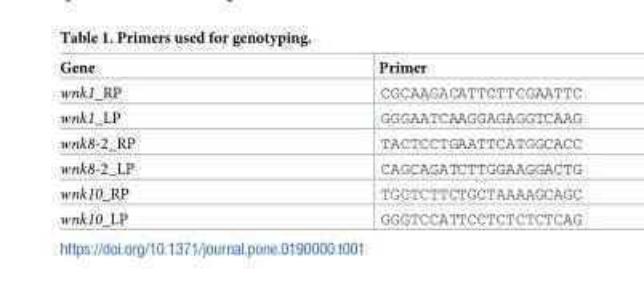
<table><thead><tr><td>Gene</td><td>Primer</td></tr></thead><tbody><tr><td>wnk1_RP</td><td>CGCAAGACATTCTTCGAATTC</td></tr><tr><td>wnk1_LP</td><td>GGGAATCAAGGAGAGGTCAAG</td></tr><tr><td>wnk8-2_RP</td><td>TACTCCTGAATTCATGGCACC</td></tr><tr><td>wnk8-2_LP</td><td>CAGCAGATCTTGGAAGGACTG</td></tr><tr><td>wnk10_RP</td><td>TGCTCTTCTGCTAAAAGCAGC</td></tr><tr><td>wnk10_LP</td><td>GGGTCCATTCCTCTCTCTCAG</td></tr></tbody></table>